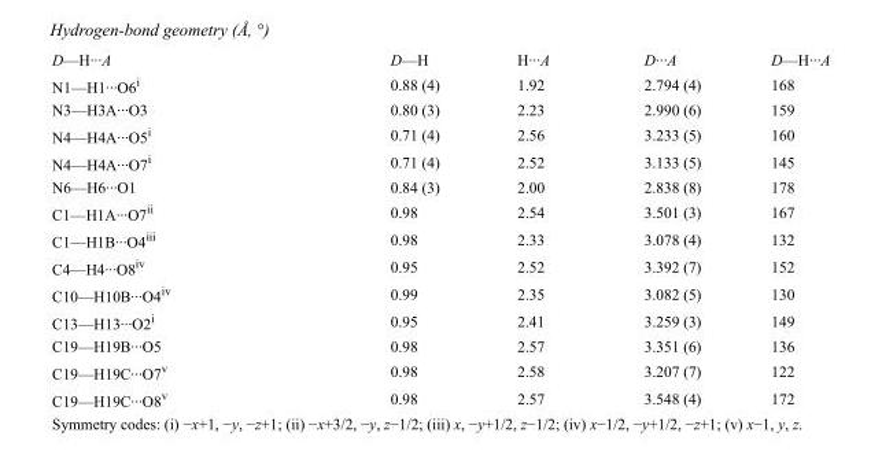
<table><tbody><tr><td>D—H···A</td><td>D—H</td><td>H···A</td><td>D···A</td><td>D—H···A</td></tr><tr><td>N1—H1···O6i</td><td>0.88 (4)</td><td>1.92</td><td>2.794 (4)</td><td>168</td></tr><tr><td>N3—H3A···O3</td><td>0.80 (3)</td><td>2.23</td><td>2.990 (6)</td><td>159</td></tr><tr><td>N4—H4A···O5i</td><td>0.71 (4)</td><td>2.56</td><td>3.233 (5)</td><td>160</td></tr><tr><td>N4—H4A···O7i</td><td>0.71 (4)</td><td>2.52</td><td>3.133 (5)</td><td>145</td></tr><tr><td>N6—H6···O1</td><td>0.84 (3)</td><td>2.00</td><td>2.838 (8)</td><td>178</td></tr><tr><td>C1—H1A···O7ii</td><td>0.98</td><td>2.54</td><td>3.501 (3)</td><td>167</td></tr><tr><td>C1—H1B···O4iii</td><td>0.98</td><td>2.33</td><td>3.078 (4)</td><td>132</td></tr><tr><td>C4—H4···O8iv</td><td>0.95</td><td>2.52</td><td>3.392 (7)</td><td>152</td></tr><tr><td>C10—H10B···O4iv</td><td>0.99</td><td>2.35</td><td>3.082 (5)</td><td>130</td></tr><tr><td>C13—H13···O2i</td><td>0.95</td><td>2.41</td><td>3.259 (3)</td><td>149</td></tr><tr><td>C19—H19B···O5</td><td>0.98</td><td>2.57</td><td>3.351 (6)</td><td>136</td></tr><tr><td>C19—H19C···O7v</td><td>0.98</td><td>2.58</td><td>3.207 (7)</td><td>122</td></tr><tr><td>C19—H19C···O8v</td><td>0.98</td><td>2.57</td><td>3.548 (4)</td><td>172</td></tr></tbody></table>